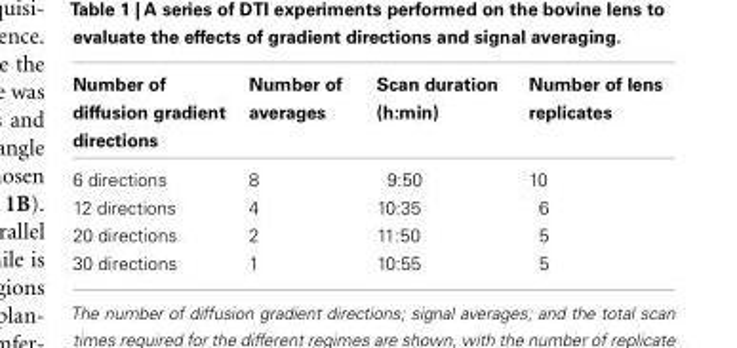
<table><thead><tr><td>Number of diffusion gradient directions</td><td>Number of averages</td><td>Scan duration (h:min)</td><td>Number of lens replicates</td></tr></thead><tbody><tr><td>6 directions</td><td>8</td><td>9:50</td><td>10</td></tr><tr><td>12 directions</td><td>4</td><td>10:35</td><td>6</td></tr><tr><td>20 directions</td><td>2</td><td>11:50</td><td>5</td></tr><tr><td>30 directions</td><td>1</td><td>10:55</td><td>5</td></tr></tbody></table>